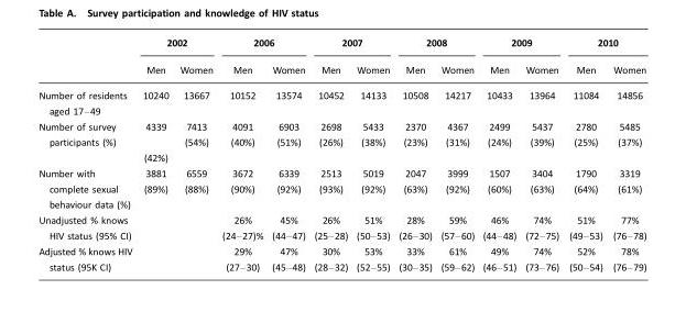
<table><thead><tr><td rowspan="2"></td><td colspan="2">2002</td><td colspan="2">2006</td><td colspan="2">2007</td><td colspan="2">2008</td><td colspan="2">2009</td><td colspan="2">2010</td></tr><tr><td>Men</td><td>Women</td><td>Men</td><td>Women</td><td>Men</td><td>Women</td><td>Men</td><td>Women</td><td>Men</td><td>Women</td><td>Men</td><td>Women</td></tr></thead><tbody><tr><td>Number of residents aged 17–49</td><td>10240</td><td>13667</td><td>10152</td><td>13574</td><td>10452</td><td>14133</td><td>10508</td><td>14217</td><td>10433</td><td>13964</td><td>11084</td><td>14856</td></tr><tr><td>Number of survey participants (%)</td><td>4339 (42%)</td><td>7413 (54%)</td><td>4091 (40%)</td><td>6903 (51%)</td><td>2698 (26%)</td><td>5433 (38%)</td><td>2370 (23%)</td><td>4367 (31%)</td><td>2499 (24%)</td><td>5437 (39%)</td><td>2780 (25%)</td><td>5485 (37%)</td></tr><tr><td>Number with complete sexual behaviour data (%)</td><td>3881 (89%)</td><td>6559 (88%)</td><td>3672 (90%)</td><td>6339 (92%)</td><td>2513 (93%)</td><td>5019 (92%)</td><td>2047 (63%)</td><td>3999 (92%)</td><td>1507 (60%)</td><td>3404 (63%)</td><td>1790 (64%)</td><td>3319 (61%)</td></tr><tr><td>Unadjusted % knows HIV status (95% CI)</td><td></td><td></td><td>26% (24–27)%</td><td>45% (44–47)</td><td>26% (25–28)</td><td>51% (50–53)</td><td>28% (26–30)</td><td>59% (57–60)</td><td>46% (44–48)</td><td>74% (72–75)</td><td>51% (49–53)</td><td>77% (76–78)</td></tr><tr><td>Adjusted % knows HIV status (95K CI)</td><td></td><td></td><td>29% (27–30)</td><td>47% (45–48)</td><td>30% (28–32)</td><td>53% (52–55)</td><td>33% (30–35)</td><td>61% (59–62)</td><td>49% (46–51)</td><td>74% (73–76)</td><td>52% (50–54)</td><td>78% (76–79)</td></tr></tbody></table>